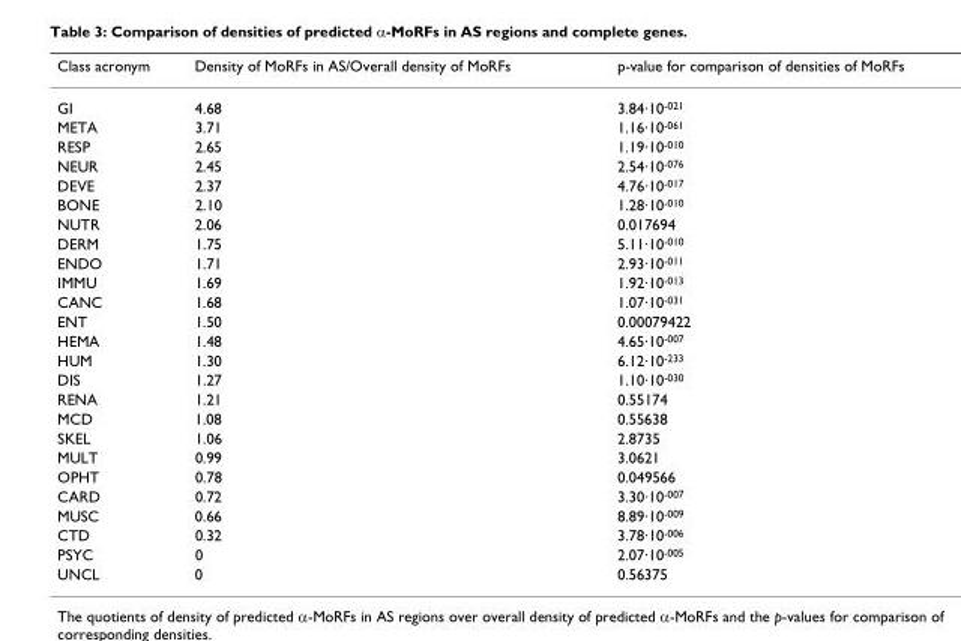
<table><thead><tr><td>Class acronym</td><td>Density of MoRFs in AS/Overall density of MoRFs</td><td>p-value for comparison of densities of MoRFs</td></tr></thead><tbody><tr><td>GI</td><td>4.68</td><td>3.84·10<sup>-021</sup></td></tr><tr><td>META</td><td>3.71</td><td>1.16·10<sup>-061</sup></td></tr><tr><td>RESP</td><td>2.65</td><td>1.19·10<sup>-010</sup></td></tr><tr><td>NEUR</td><td>2.45</td><td>2.54·10<sup>-076</sup></td></tr><tr><td>DEVE</td><td>2.37</td><td>4.76·10<sup>-017</sup></td></tr><tr><td>BONE</td><td>2.10</td><td>1.28·10<sup>-010</sup></td></tr><tr><td>NUTR</td><td>2.06</td><td>0.017694</td></tr><tr><td>DERM</td><td>1.75</td><td>5.11·10<sup>-010</sup></td></tr><tr><td>ENDO</td><td>1.71</td><td>2.93·10<sup>-011</sup></td></tr><tr><td>IMMU</td><td>1.69</td><td>1.92·10<sup>-013</sup></td></tr><tr><td>CANC</td><td>1.68</td><td>1.07·10<sup>-031</sup></td></tr><tr><td>ENT</td><td>1.50</td><td>0.00079422</td></tr><tr><td>HEMA</td><td>1.48</td><td>4.65·10<sup>-007</sup></td></tr><tr><td>HUM</td><td>1.30</td><td>6.12·10<sup>-233</sup></td></tr><tr><td>DIS</td><td>1.27</td><td>1.10·10<sup>-030</sup></td></tr><tr><td>RENA</td><td>1.21</td><td>0.55174</td></tr><tr><td>MCD</td><td>1.08</td><td>0.55638</td></tr><tr><td>SKEL</td><td>1.06</td><td>2.8735</td></tr><tr><td>MULT</td><td>0.99</td><td>3.0621</td></tr><tr><td>OPHT</td><td>0.78</td><td>0.049566</td></tr><tr><td>CARD</td><td>0.72</td><td>3.30·10<sup>-007</sup></td></tr><tr><td>MUSC</td><td>0.66</td><td>8.89·10<sup>-009</sup></td></tr><tr><td>CTD</td><td>0.32</td><td>3.78·10<sup>-006</sup></td></tr><tr><td>PSYC</td><td>0</td><td>2.07·10<sup>-005</sup></td></tr><tr><td>UNCL</td><td>0</td><td>0.56375</td></tr></tbody></table>